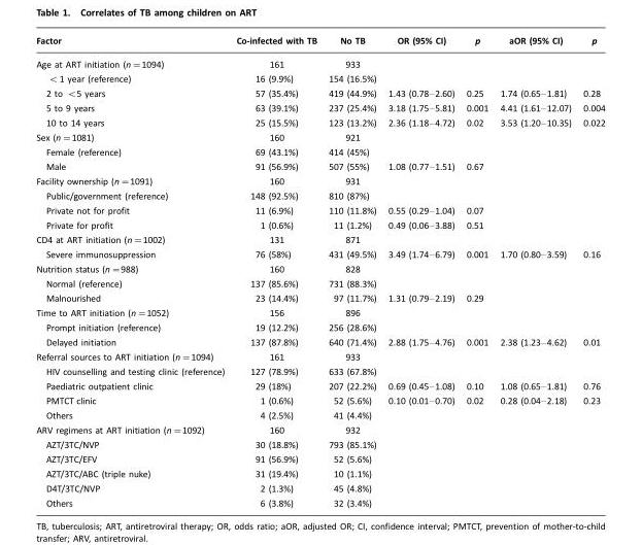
<table><thead><tr><td>Factor</td><td>Co-infected with TB</td><td>No TB</td><td>OR (95% CI)</td><td>p</td><td>aOR (95% CI)</td><td>p</td></tr></thead><tbody><tr><td>Age at ART initiation (n=1094)</td><td>161</td><td>933</td><td></td><td></td><td></td><td></td></tr><tr><td>&lt;1 year (reference)</td><td>16 (9.9%)</td><td>154 (16.5%)</td><td></td><td></td><td></td><td></td></tr><tr><td>2 to &lt;5 years</td><td>57 (35.4%)</td><td>419 (44.9%)</td><td>1.43 (0.78–2.60)</td><td>0.25</td><td>1.74 (0.65–1.81)</td><td>0.28</td></tr><tr><td>5 to 9 years</td><td>63 (39.1%)</td><td>237 (25.4%)</td><td>3.18 (1.75–5.81)</td><td>0.001</td><td>4.41 (1.61–12.07)</td><td>0.004</td></tr><tr><td>10 to 14 years</td><td>25 (15.5%)</td><td>123 (13.2%)</td><td>2.36 (1.18–4.72)</td><td>0.02</td><td>3.53 (1.20–10.35)</td><td>0.022</td></tr><tr><td>Sex (n=1081)</td><td>160</td><td>921</td><td></td><td></td><td></td><td></td></tr><tr><td>Female (reference)</td><td>69 (43.1%)</td><td>414 (45%)</td><td></td><td></td><td></td><td></td></tr><tr><td>Male</td><td>91 (56.9%)</td><td>507 (55%)</td><td>1.08 (0.77–1.51)</td><td>0.67</td><td></td><td></td></tr><tr><td>Facility ownership (n=1091)</td><td>160</td><td>931</td><td></td><td></td><td></td><td></td></tr><tr><td>Public/government (reference)</td><td>148 (92.5%)</td><td>810 (87%)</td><td></td><td></td><td></td><td></td></tr><tr><td>Private not for profit</td><td>11 (6.9%)</td><td>110 (11.8%)</td><td>0.55 (0.29–1.04)</td><td>0.07</td><td></td><td></td></tr><tr><td>Private for profit</td><td>1 (0.6%)</td><td>11 (1.2%)</td><td>0.49 (0.06–3.88)</td><td>0.51</td><td></td><td></td></tr><tr><td>CD4 at ART initiation (n=1002)</td><td>131</td><td>871</td><td></td><td></td><td></td><td></td></tr><tr><td>Severe immunosuppression</td><td>76 (58%)</td><td>431 (49.5%)</td><td>3.49 (1.74–6.79)</td><td>0.001</td><td>1.70 (0.80–3.59)</td><td>0.16</td></tr><tr><td>Nutrition status (n=988)</td><td>160</td><td>828</td><td></td><td></td><td></td><td></td></tr><tr><td>Normal (reference)</td><td>137 (85.6%)</td><td>731 (88.3%)</td><td></td><td></td><td></td><td></td></tr><tr><td>Malnourished</td><td>23 (14.4%)</td><td>97 (11.7%)</td><td>1.31 (0.79–2.19)</td><td>0.29</td><td></td><td></td></tr><tr><td>Time to ART initiation (n=1052)</td><td>156</td><td>896</td><td></td><td></td><td></td><td></td></tr><tr><td>Prompt initiation (reference)</td><td>19 (12.2%)</td><td>256 (28.6%)</td><td></td><td></td><td></td><td></td></tr><tr><td>Delayed initiation</td><td>137 (87.8%)</td><td>640 (71.4%)</td><td>2.88 (1.75–4.76)</td><td>0.001</td><td>2.38 (1.23–4.62)</td><td>0.01</td></tr><tr><td>Referral sources to ART initiation (n=1094)</td><td>161</td><td>933</td><td></td><td></td><td></td><td></td></tr><tr><td>HIV counselling and testing clinic (reference)</td><td>127 (78.9%)</td><td>633 (67.8%)</td><td></td><td></td><td></td><td></td></tr><tr><td>Paediatric outpatient clinic</td><td>29 (18%)</td><td>207 (22.2%)</td><td>0.69 (0.45–1.08)</td><td>0.10</td><td>1.08 (0.65–1.81)</td><td>0.76</td></tr><tr><td>PMTCT clinic</td><td>1 (0.6%)</td><td>52 (5.6%)</td><td>0.10 (0.01–0.70)</td><td>0.02</td><td>0.28 (0.04–2.18)</td><td>0.23</td></tr><tr><td>Others</td><td>4 (2.5%)</td><td>41 (4.4%)</td><td></td><td></td><td></td><td></td></tr><tr><td>ARV regimens at ART initiation (n=1092)</td><td>160</td><td>932</td><td></td><td></td><td></td><td></td></tr><tr><td>AZT/3TC/NVP</td><td>30 (18.8%)</td><td>793 (85.1%)</td><td></td><td></td><td></td><td></td></tr><tr><td>AZT/3TC/EFV</td><td>91 (56.9%)</td><td>52 (5.6%)</td><td></td><td></td><td></td><td></td></tr><tr><td>AZT/3TC/ABC (triple nuke)</td><td>31 (19.4%)</td><td>10 (1.1%)</td><td></td><td></td><td></td><td></td></tr><tr><td>D4T/3TC/NVP</td><td>2 (1.3%)</td><td>45 (4.8%)</td><td></td><td></td><td></td><td></td></tr><tr><td>Others</td><td>6 (3.8%)</td><td>32 (3.4%)</td><td></td><td></td><td></td><td></td></tr></tbody></table>